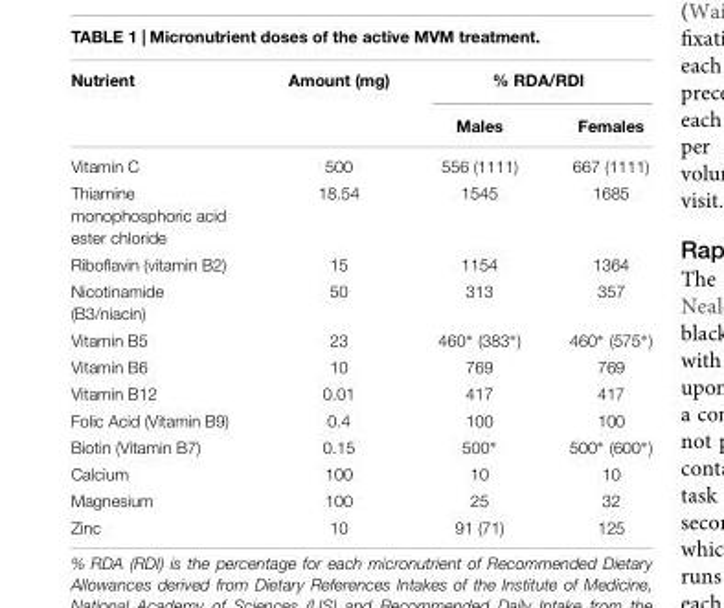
<table><thead><tr><td rowspan="2">Nutrient</td><td rowspan="2">Amount (mg)</td><td colspan="2">% RDA/RDI</td></tr><tr><td>Males</td><td>Females</td></tr></thead><tbody><tr><td>Vitamin C</td><td>500</td><td>556 (1111)</td><td>667 (1111)</td></tr><tr><td>Thiamine monophosphoric acid ester chloride</td><td>18.54</td><td>1545</td><td>1685</td></tr><tr><td>Riboflavin (vitamin B2)</td><td>15</td><td>1154</td><td>1364</td></tr><tr><td>Nicotinamide (B3/niacin)</td><td>50</td><td>313</td><td>357</td></tr><tr><td>Vitamin B5</td><td>23</td><td>460∗ (383∗)</td><td>460∗ (575∗)</td></tr><tr><td>Vitamin B6</td><td>10</td><td>769</td><td>769</td></tr><tr><td>Vitamin B12</td><td>0.01</td><td>417</td><td>417</td></tr><tr><td>Folic Acid (Vitamin B9)</td><td>0.4</td><td>100</td><td>100</td></tr><tr><td>Biotin (Vitamin B7)</td><td>0.15</td><td>500∗</td><td>500∗ (600∗)</td></tr><tr><td>Calcium</td><td>100</td><td>10</td><td>10</td></tr><tr><td>Magnesium</td><td>100</td><td>25</td><td>32</td></tr><tr><td>Zinc</td><td>10</td><td>91 (71)</td><td>125</td></tr></tbody></table>